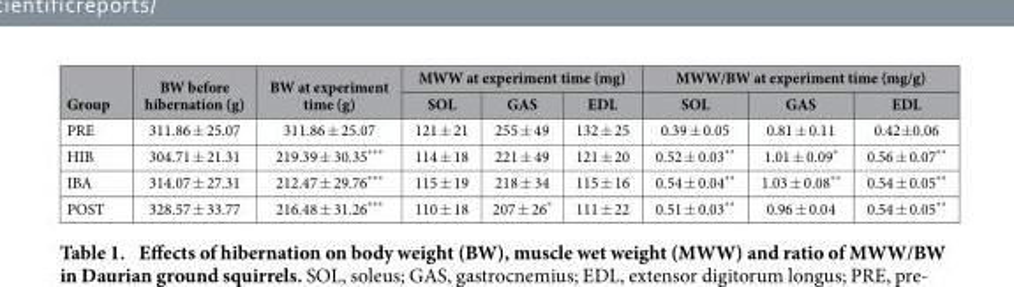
<table><thead><tr><td rowspan="2">Group</td><td rowspan="2">BW before hibernation (g)</td><td rowspan="2">BW at experiment time (g)</td><td colspan="3">MWW at experiment time (mg)</td><td colspan="3">MWW/BW at experiment time (mg/g)</td></tr><tr><td>SOL</td><td>GAS</td><td>EDL</td><td>SOL</td><td>GAS</td><td>EDL</td></tr></thead><tbody><tr><td>PRE</td><td>311.86 ± 25.07</td><td>311.86 ± 25.07</td><td>121 ± 21</td><td>255 ± 49</td><td>132 ± 25</td><td>0.39 ± 0.05</td><td>0.81 ± 0.11</td><td>0.42± 0.06</td></tr><tr><td>HIB</td><td>304.71 ± 21.31</td><td>219.39 ± 30.35***</td><td>114 ± 18</td><td>221 ± 49</td><td>121 ± 20</td><td>0.52 ± 0.03**</td><td>1.01 ± 0.09*</td><td>0.56 ± 0.07**</td></tr><tr><td>IBA</td><td>314.07 ± 27.31</td><td>212.47 ± 29.76***</td><td>115 ± 19</td><td>218 ± 34</td><td>115 ± 16</td><td>0.54 ± 0.04**</td><td>1.03 ± 0.08**</td><td>0.54 ± 0.05**</td></tr><tr><td>POST</td><td>328.57 ± 33.77</td><td>216.48 ± 31.26***</td><td>110 ± 18</td><td>207 ± 26*</td><td>111 ± 22</td><td>0.51 ± 0.03**</td><td>0.96 ± 0.04</td><td>0.54 ± 0.05**</td></tr></tbody></table>